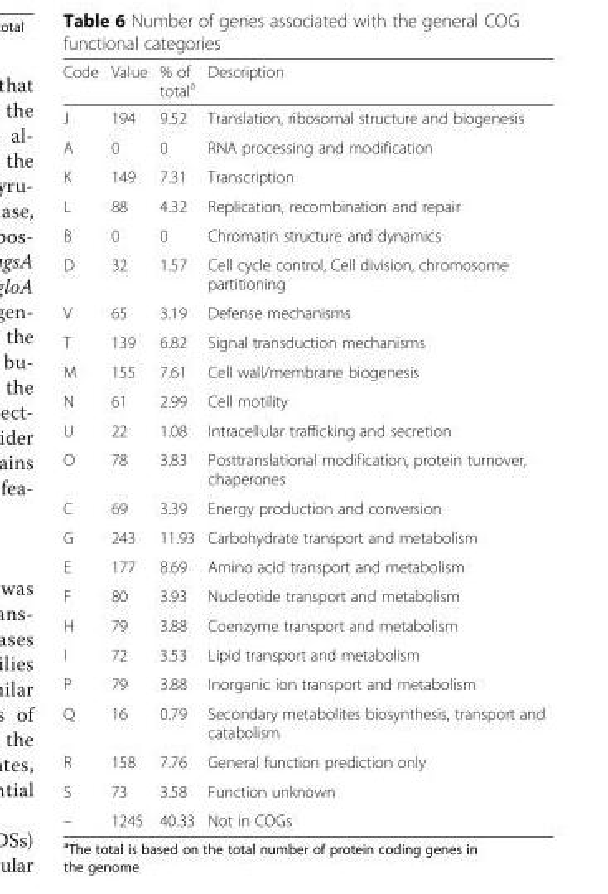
<table><thead><tr><td>Code</td><td>Value</td><td>% of total<sup>a</sup></td><td>Description</td></tr></thead><tbody><tr><td>J</td><td>194</td><td>9.52</td><td>Translation, ribosomal structure and biogenesis</td></tr><tr><td>A</td><td>0</td><td>0</td><td>RNA processing and modification</td></tr><tr><td>K</td><td>149</td><td>7.31</td><td>Transcription</td></tr><tr><td>L</td><td>88</td><td>4.32</td><td>Replication, recombination and repair</td></tr><tr><td>B</td><td>0</td><td>0</td><td>Chromatin structure and dynamics</td></tr><tr><td>D</td><td>32</td><td>1.57</td><td>Cell cycle control, Cell division, chromosome partitioning</td></tr><tr><td>V</td><td>65</td><td>3.19</td><td>Defense mechanisms</td></tr><tr><td>T</td><td>139</td><td>6.82</td><td>Signal transduction mechanisms</td></tr><tr><td>M</td><td>155</td><td>7.61</td><td>Cell wall/membrane biogenesis</td></tr><tr><td>N</td><td>61</td><td>2.99</td><td>Cell motility</td></tr><tr><td>U</td><td>22</td><td>1.08</td><td>Intracellular trafficking and secretion</td></tr><tr><td>O</td><td>78</td><td>3.83</td><td>Posttranslational modification, protein turnover, chaperones</td></tr><tr><td>C</td><td>69</td><td>3.39</td><td>Energy production and conversion</td></tr><tr><td>G</td><td>243</td><td>11.93</td><td>Carbohydrate transport and metabolism</td></tr><tr><td>E</td><td>177</td><td>8.69</td><td>Amino acid transport and metabolism</td></tr><tr><td>F</td><td>80</td><td>3.93</td><td>Nucleotide transport and metabolism</td></tr><tr><td>H</td><td>79</td><td>3.88</td><td>Coenzyme transport and metabolism</td></tr><tr><td>I</td><td>72</td><td>3.53</td><td>Lipid transport and metabolism</td></tr><tr><td>P</td><td>79</td><td>3.88</td><td>Inorganic ion transport and metabolism</td></tr><tr><td>Q</td><td>16</td><td>0.79</td><td>Secondary metabolites biosynthesis, transport and catabolism</td></tr><tr><td>R</td><td>158</td><td>7.76</td><td>General function prediction only</td></tr><tr><td>S</td><td>73</td><td>3.58</td><td>Function unknown</td></tr><tr><td>–</td><td>1245</td><td>40.33</td><td>Not in COGs</td></tr></tbody></table>